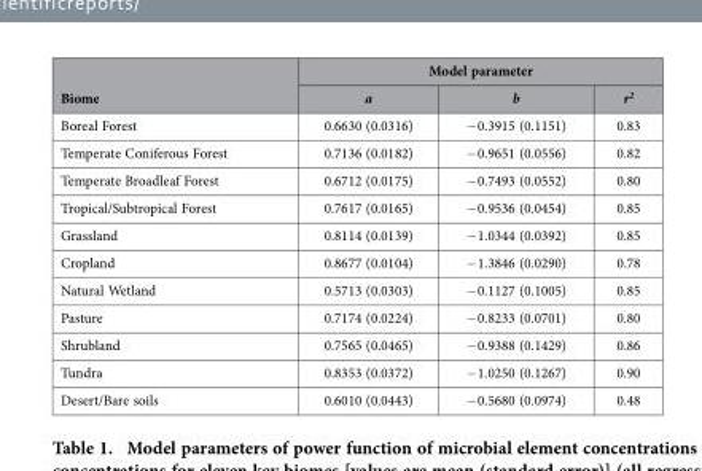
<table><thead><tr><td rowspan="2">Biome</td><td colspan="3">Model parameter</td></tr><tr><td>a</td><td>b</td><td>r<sup>2</sup></td></tr></thead><tbody><tr><td>Boreal Forest</td><td>0.6630 (0.0316)</td><td>− 0.3915 (0.1151)</td><td>0.83</td></tr><tr><td>Temperate Coniferous Forest</td><td>0.7136 (0.0182)</td><td>− 0.9651 (0.0556)</td><td>0.82</td></tr><tr><td>Temperate Broadleaf Forest</td><td>0.6712 (0.0175)</td><td>− 0.7493 (0.0552)</td><td>0.80</td></tr><tr><td>Tropical/Subtropical Forest</td><td>0.7617 (0.0165)</td><td>− 0.9536 (0.0454)</td><td>0.85</td></tr><tr><td>Grassland</td><td>0.8114 (0.0139)</td><td>− 1.0344 (0.0392)</td><td>0.85</td></tr><tr><td>Cropland</td><td>0.8677 (0.0104)</td><td>− 1.3846 (0.0290)</td><td>0.78</td></tr><tr><td>Natural Wetland</td><td>0.5713 (0.0303)</td><td>− 0.1127 (0.1005)</td><td>0.85</td></tr><tr><td>Pasture</td><td>0.7174 (0.0224)</td><td>− 0.8233 (0.0701)</td><td>0.80</td></tr><tr><td>Shrubland</td><td>0.7565 (0.0465)</td><td>− 0.9388 (0.1429)</td><td>0.86</td></tr><tr><td>Tundra</td><td>0.8353 (0.0372)</td><td>− 1.0250 (0.1267)</td><td>0.90</td></tr><tr><td>Desert/Bare soils</td><td>0.6010 (0.0443)</td><td>− 0.5680 (0.0974)</td><td>0.48</td></tr></tbody></table>